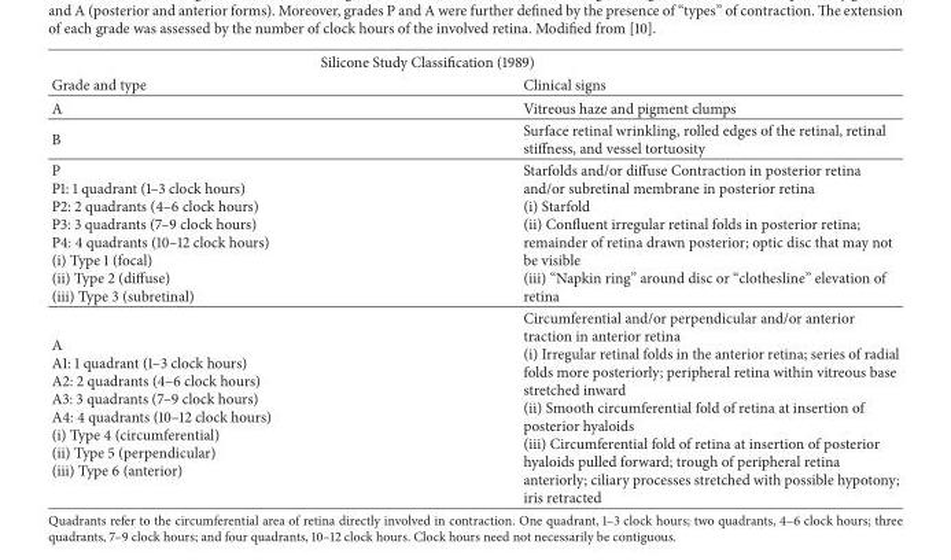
<table><thead><tr><td colspan="2">Silicone Study Classification (1989)</td></tr><tr><td>Grade and type</td><td>Clinical signs</td></tr></thead><tbody><tr><td>A</td><td>Vitreous haze and pigment clumps</td></tr><tr><td>B</td><td>Surface retinal wrinkling, rolled edges of the retinal, retinal stiffness, and vessel tortuosity</td></tr><tr><td>P P1: 1 quadrant (1–3 clock hours) P2: 2 quadrants (4–6 clock hours) P3: 3 quadrants (7–9 clock hours) P4: 4 quadrants (10–12 clock hours) (i) Type 1 (focal) (ii) Type 2 (diffuse) (iii) Type 3 (subretinal)</td><td>Starfolds and/or diffuse Contraction in posterior retina and/or subretinal membrane in posterior retina (i) Starfold (ii) Confluent irregular retinal folds in posterior retina; remainder of retina drawn posterior; optic disc that may not be visible (iii) “Napkin ring” around disc or “clothesline” elevation of retina</td></tr><tr><td>A A1: 1 quadrant (1–3 clock hours) A2: 2 quadrants (4–6 clock hours) A3: 3 quadrants (7–9 clock hours) A4: 4 quadrants (10–12 clock hours) (i) Type 4 (circumferential) (ii) Type 5 (perpendicular) (iii) Type 6 (anterior)</td><td>Circumferential and/or perpendicular and/or anterior traction in anterior retina (i) Irregular retinal folds in the anterior retina; series of radial folds more posteriorly; peripheral retina within vitreous base stretched inward (ii) Smooth circumferential fold of retina at insertion of posterior hyaloids (iii) Circumferential fold of retina at insertion of posterior hyaloids pulled forward; trough of peripheral retina anteriorly; ciliary processes stretched with possible hypotony; iris retracted</td></tr></tbody></table>